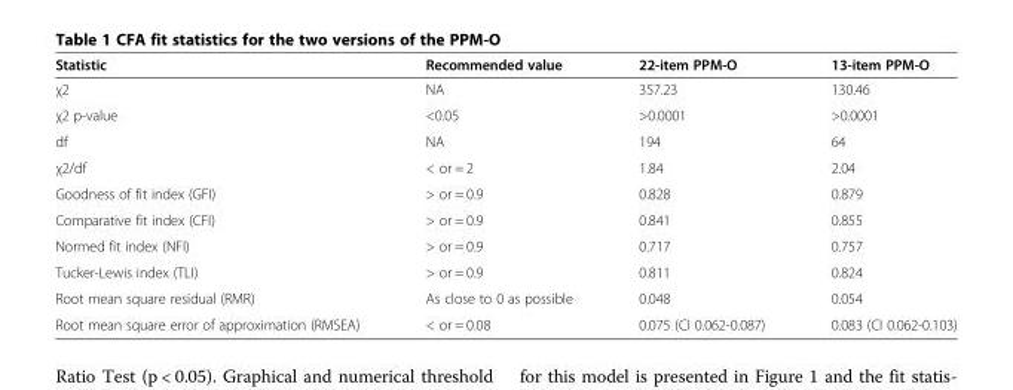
<table><thead><tr><td>Statistic</td><td>Recommended value</td><td>22-item PPM-O</td><td>13-item PPM-O</td></tr></thead><tbody><tr><td>χ2</td><td>NA</td><td>357.23</td><td>130.46</td></tr><tr><td>χ2 p-value</td><td>&lt;0.05</td><td>&gt;0.0001</td><td>&gt;0.0001</td></tr><tr><td>df</td><td>NA</td><td>194</td><td>64</td></tr><tr><td>χ2/df</td><td>&lt; or = 2</td><td>1.84</td><td>2.04</td></tr><tr><td>Goodness of fit index (GFI)</td><td>&gt; or = 0.9</td><td>0.828</td><td>0.879</td></tr><tr><td>Comparative fit index (CFI)</td><td>&gt; or = 0.9</td><td>0.841</td><td>0.855</td></tr><tr><td>Normed fit index (NFI)</td><td>&gt; or = 0.9</td><td>0.717</td><td>0.757</td></tr><tr><td>Tucker-Lewis index (TLI)</td><td>&gt; or = 0.9</td><td>0.811</td><td>0.824</td></tr><tr><td>Root mean square residual (RMR)</td><td>As close to 0 as possible</td><td>0.048</td><td>0.054</td></tr><tr><td>Root mean square error of approximation (RMSEA)</td><td>&lt; or = 0.08</td><td>0.075 (CI 0.062-0.087)</td><td>0.083 (CI 0.062-0.103)</td></tr></tbody></table>